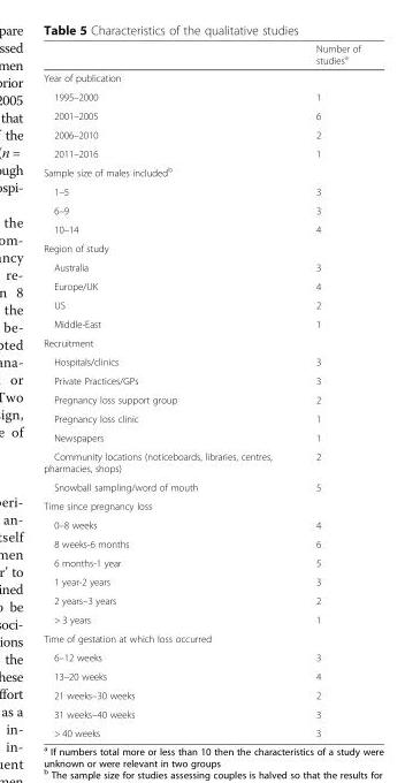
<table><thead><tr><td></td><td>Number of studies<sup>a</sup></td></tr></thead><tbody><tr><td colspan="2">Year of publication</td></tr><tr><td>1995–2000</td><td>1</td></tr><tr><td>2001–2005</td><td>6</td></tr><tr><td>2006–2010</td><td>2</td></tr><tr><td>2011–2016</td><td>1</td></tr><tr><td colspan="2">Sample size of males included<sup>b</sup></td></tr><tr><td>1–5</td><td>3</td></tr><tr><td>6–9</td><td>3</td></tr><tr><td>10–14</td><td>4</td></tr><tr><td colspan="2">Region of study</td></tr><tr><td>Australia</td><td>3</td></tr><tr><td>Europe/UK</td><td>4</td></tr><tr><td>US</td><td>2</td></tr><tr><td>Middle-East</td><td>1</td></tr><tr><td colspan="2">Recruitment</td></tr><tr><td>Hospitals/clinics</td><td>3</td></tr><tr><td>Private Practices/GPs</td><td>3</td></tr><tr><td>Pregnancy loss support group</td><td>2</td></tr><tr><td>Pregnancy loss clinic</td><td>1</td></tr><tr><td>Newspapers</td><td>1</td></tr><tr><td>Community locations (noticeboards, libraries, centres, pharmacies, shops)</td><td>2</td></tr><tr><td>Snowball sampling/word of mouth</td><td>5</td></tr><tr><td colspan="2">Time since pregnancy loss</td></tr><tr><td>0–8 weeks</td><td>4</td></tr><tr><td>8 weeks-6 months</td><td>6</td></tr><tr><td>6 months-1 year</td><td>5</td></tr><tr><td>1 year-2 years</td><td>3</td></tr><tr><td>2 years–3 years</td><td>2</td></tr><tr><td>&gt; 3 years</td><td>1</td></tr><tr><td colspan="2">Time of gestation at which loss occurred</td></tr><tr><td>6–12 weeks</td><td>3</td></tr><tr><td>13–20 weeks</td><td>4</td></tr><tr><td>21 weeks–30 weeks</td><td>2</td></tr><tr><td>31 weeks–40 weeks</td><td>3</td></tr><tr><td>&gt; 40 weeks</td><td>3</td></tr></tbody></table>